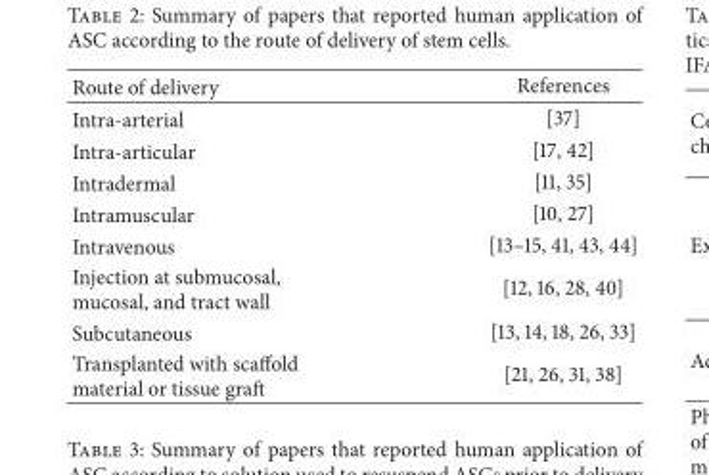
<table><thead><tr><td>Route of delivery</td><td>References</td></tr></thead><tbody><tr><td>Intra-arterial</td><td>[37]</td></tr><tr><td>Intra-articular</td><td>[17, 42]</td></tr><tr><td>Intradermal</td><td>[11, 35]</td></tr><tr><td>Intramuscular</td><td>[10, 27]</td></tr><tr><td>Intravenous</td><td>[13–15, 41, 43, 44]</td></tr><tr><td>Injection at submucosal, mucosal, and tract wall</td><td>[12, 16, 28, 40]</td></tr><tr><td>Subcutaneous</td><td>[13, 14, 18, 26, 33]</td></tr><tr><td>Transplanted with scaffold material or tissue graft</td><td>[21, 26, 31, 38]</td></tr></tbody></table>